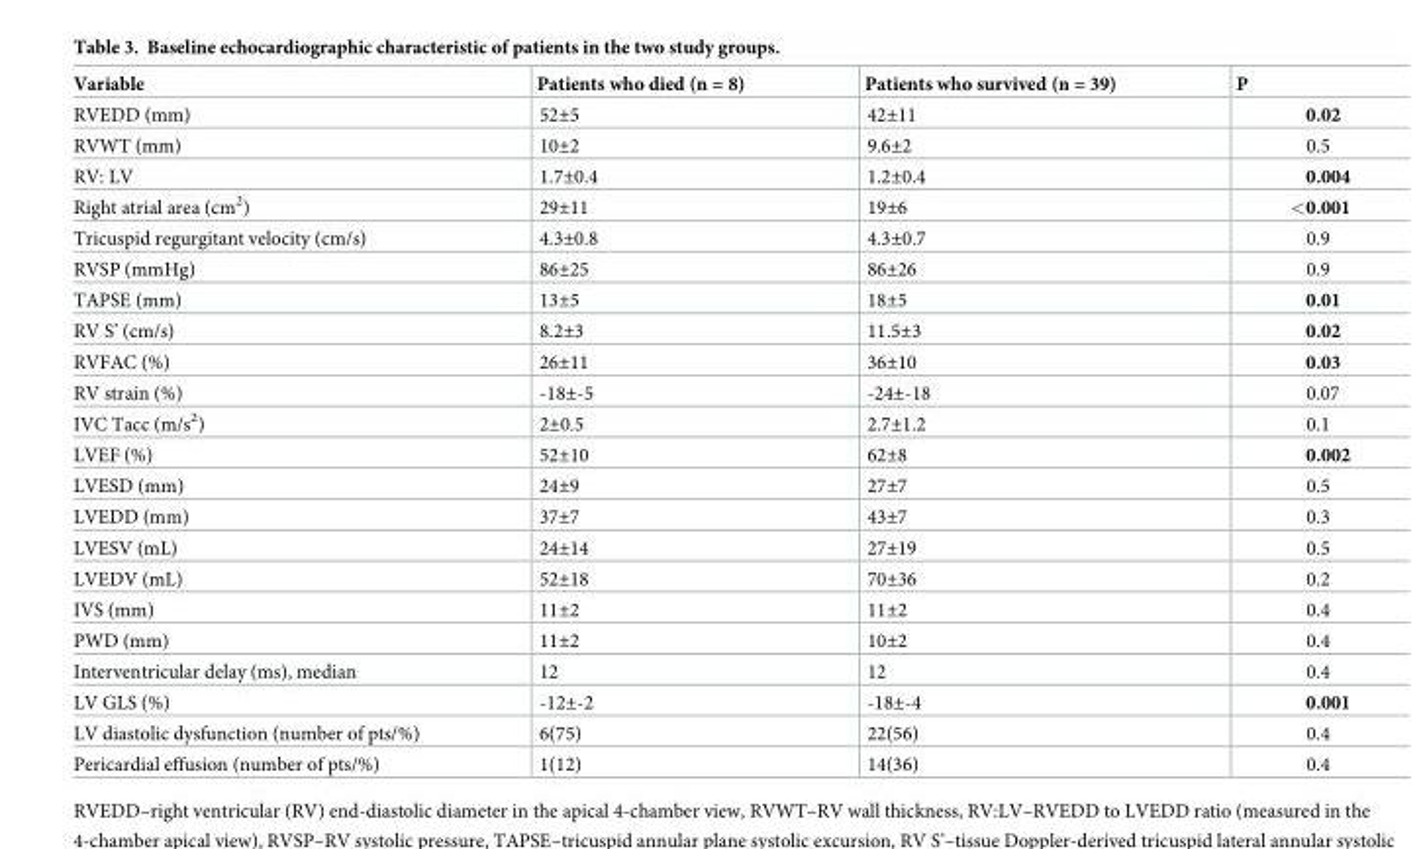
<table><thead><tr><td>Variable</td><td>Patients who died (n = 8)</td><td>Patients who survived (n = 39)</td><td>P</td></tr></thead><tbody><tr><td>RVEDD (mm)</td><td>52±5</td><td>42±11</td><td>0.02</td></tr><tr><td>RVWT (mm)</td><td>10±2</td><td>9.6±2</td><td>0.5</td></tr><tr><td>RV: LV</td><td>1.7±0.4</td><td>1.2±0.4</td><td>0.004</td></tr><tr><td>Right atrial area (cm<sup>2</sup>)</td><td>29±11</td><td>19±6</td><td>&lt;0.001</td></tr><tr><td>Tricuspid regurgitant velocity (cm/s)</td><td>4.3±0.8</td><td>4.3±0.7</td><td>0.9</td></tr><tr><td>RVSP (mmHg)</td><td>86±25</td><td>86±26</td><td>0.9</td></tr><tr><td>TAPSE (mm)</td><td>13±5</td><td>18±5</td><td>0.01</td></tr><tr><td>RV S’ (cm/s)</td><td>8.2±3</td><td>11.5±3</td><td>0.02</td></tr><tr><td>RVFAC (%)</td><td>26±11</td><td>36±10</td><td>0.03</td></tr><tr><td>RV strain (%)</td><td>-18±-5</td><td>-24±-18</td><td>0.07</td></tr><tr><td>IVC Tacc (m/s<sup>2</sup>)</td><td>2±0.5</td><td>2.7±1.2</td><td>0.1</td></tr><tr><td>LVEF (%)</td><td>52±10</td><td>62±8</td><td>0.002</td></tr><tr><td>LVESD (mm)</td><td>24±9</td><td>27±7</td><td>0.5</td></tr><tr><td>LVEDD (mm)</td><td>37±7</td><td>43±7</td><td>0.3</td></tr><tr><td>LVESV (mL)</td><td>24±14</td><td>27±19</td><td>0.5</td></tr><tr><td>LVEDV (mL)</td><td>52±18</td><td>70±36</td><td>0.2</td></tr><tr><td>IVS (mm)</td><td>11±2</td><td>11±2</td><td>0.4</td></tr><tr><td>PWD (mm)</td><td>11±2</td><td>10±2</td><td>0.4</td></tr><tr><td>Interventricular delay (ms), median</td><td>12</td><td>12</td><td>0.4</td></tr><tr><td>LV GLS (%)</td><td>-12±-2</td><td>-18±-4</td><td>0.001</td></tr><tr><td>LV diastolic dysfunction (number of pts/%)</td><td>6(75)</td><td>22(56)</td><td>0.4</td></tr><tr><td>Pericardial effusion (number of pts/%)</td><td>1(12)</td><td>14(36)</td><td>0.4</td></tr></tbody></table>